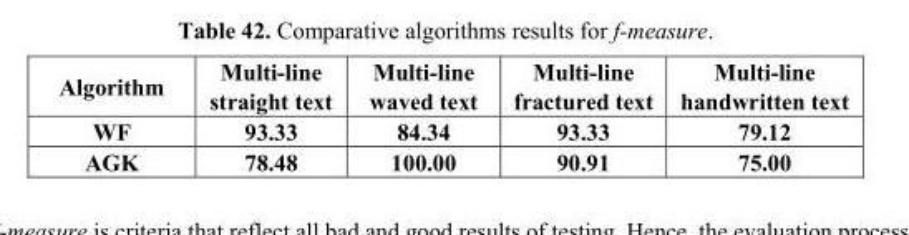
<table><thead><tr><td>Algorithm</td><td>Multi-line straight text</td><td>Multi-line waved text</td><td>Multi-line fractured text</td><td>Multi-line handwritten text</td></tr></thead><tbody><tr><td>WF</td><td>93.33</td><td>84.34</td><td>93.33</td><td>79.12</td></tr><tr><td>AGK</td><td>78.48</td><td>100.00</td><td>90.91</td><td>75.00</td></tr></tbody></table>